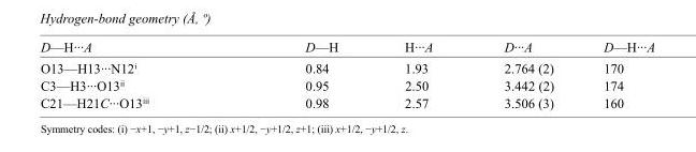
<table><tbody><tr><td>D—H···A</td><td>D—H</td><td>H···A</td><td>D···A</td><td>D—H···A</td></tr><tr><td>O13—H13···N12<sup>i</sup></td><td>0.84</td><td>1.93</td><td>2.764 (2)</td><td>170</td></tr><tr><td>C3—H3···O13<sup>ii</sup></td><td>0.95</td><td>2.50</td><td>3.442 (2)</td><td>174</td></tr><tr><td>C21—H21C···O13<sup>iii</sup></td><td>0.98</td><td>2.57</td><td>3.506 (3)</td><td>160</td></tr></tbody></table>